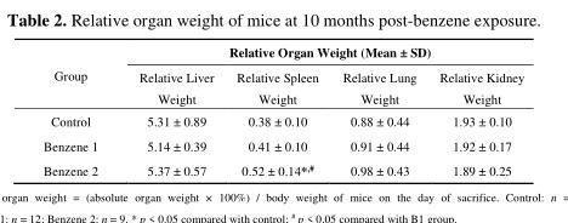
<table><thead><tr><td rowspan="2">Group</td><td colspan="4">Relative Organ Weight (Mean ± SD)</td></tr><tr><td>Relative Liver Weight</td><td>Relative Spleen Weight</td><td>Relative Lung Weight</td><td>Relative Kidney Weight</td></tr></thead><tbody><tr><td>Control</td><td>5.31 ± 0.89</td><td>0.38 ± 0.10</td><td>0.88 ± 0.44</td><td>1.93 ± 0.10</td></tr><tr><td>Benzene 1</td><td>5.14 ± 0.39</td><td>0.41 ± 0.10</td><td>0.91 ± 0.44</td><td>1.92 ± 0.17</td></tr><tr><td>Benzene 2</td><td>5.37 ± 0.57</td><td>0.52 ± 0.14*<sup>,#</sup></td><td>0.98 ± 0.43</td><td>1.89 ± 0.25</td></tr></tbody></table>